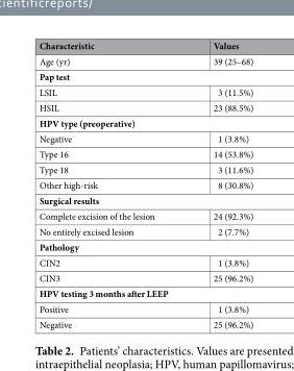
<table><thead><tr><td>Characteristic</td><td>Values</td></tr></thead><tbody><tr><td>Age (yr)</td><td>39 (25–68)</td></tr><tr><td colspan="2">Pap test</td></tr><tr><td>LSIL</td><td>3 (11.5%)</td></tr><tr><td>HSIL</td><td>23 (88.5%)</td></tr><tr><td colspan="2">HPV type (preoperative)</td></tr><tr><td>Negative</td><td>1 (3.8%)</td></tr><tr><td>Type 16</td><td>14 (53.8%)</td></tr><tr><td>Type 18</td><td>3 (11.6%)</td></tr><tr><td>Other high-risk</td><td>8 (30.8%)</td></tr><tr><td colspan="2">Surgical results</td></tr><tr><td>Complete excision of the lesion</td><td>24 (92.3%)</td></tr><tr><td>No entirely excised lesion</td><td>2 (7.7%)</td></tr><tr><td colspan="2">Pathology</td></tr><tr><td>CIN2</td><td>1 (3.8%)</td></tr><tr><td>CIN3</td><td>25 (96.2%)</td></tr><tr><td colspan="2">HPV testing 3 months after LEEP</td></tr><tr><td>Positive</td><td>1 (3.8%)</td></tr><tr><td>Negative</td><td>25 (96.2%)</td></tr></tbody></table>